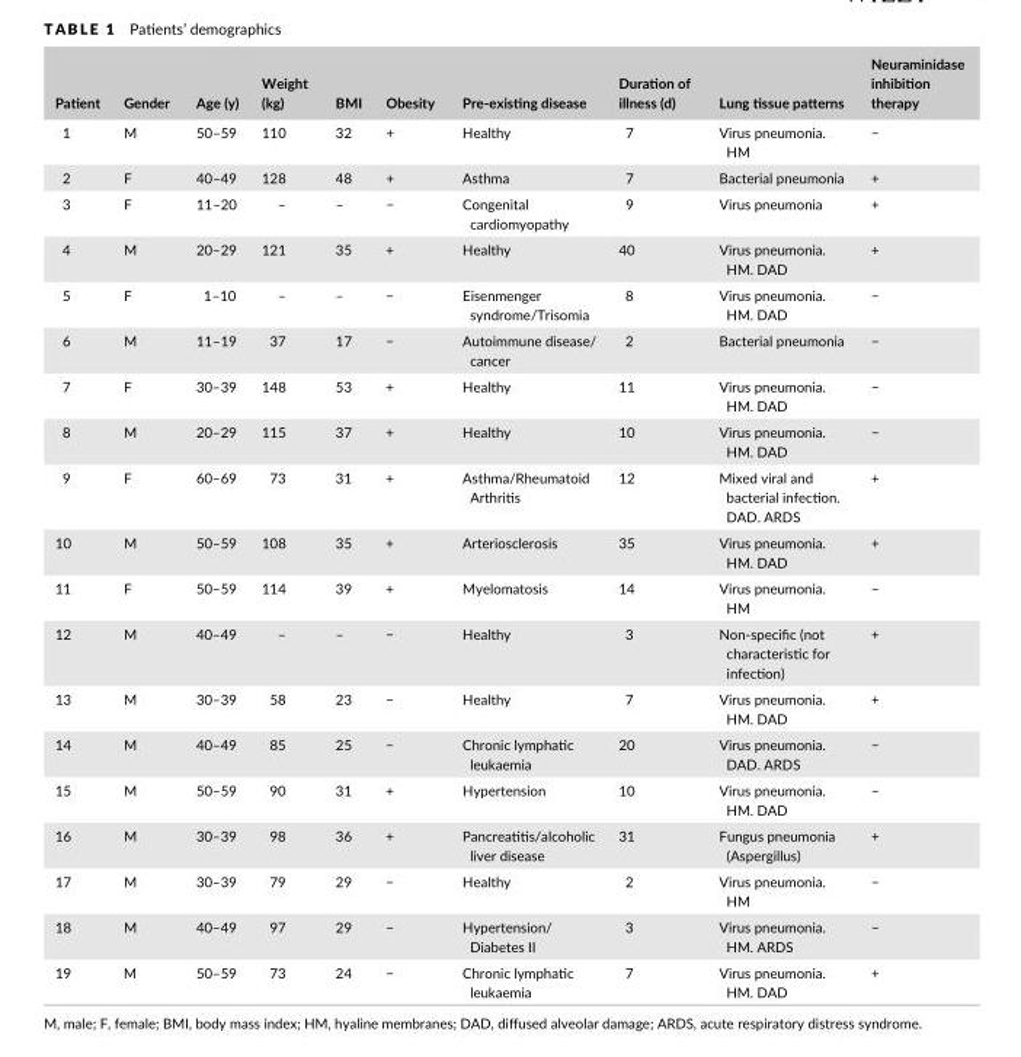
<table><thead><tr><td>Patient</td><td>Gender</td><td>Age (y)</td><td>Weight (kg)</td><td>BMI</td><td>Obesity</td><td>Pre- existing disease</td><td>Duration of illness (d)</td><td>Lung tissue patterns</td><td>Neuraminidase inhibition therapy</td></tr></thead><tbody><tr><td>1</td><td>M</td><td>50–59</td><td>110</td><td>32</td><td>+</td><td>Healthy</td><td>7</td><td>Virus pneumonia. HM</td><td>−</td></tr><tr><td>2</td><td>F</td><td>40–49</td><td>128</td><td>48</td><td>+</td><td>Asthma</td><td>7</td><td>Bacterial pneumonia</td><td>+</td></tr><tr><td>3</td><td>F</td><td>11–20</td><td>–</td><td>–</td><td>−</td><td>Congenital cardiomyopathy</td><td>9</td><td>Virus pneumonia</td><td>+</td></tr><tr><td>4</td><td>M</td><td>20–29</td><td>121</td><td>35</td><td>+</td><td>Healthy</td><td>40</td><td>Virus pneumonia. HM. DAD</td><td>+</td></tr><tr><td>5</td><td>F</td><td>1–10</td><td>–</td><td>–</td><td>−</td><td>Eisenmenger syndrome/Trisomia</td><td>8</td><td>Virus pneumonia. HM. DAD</td><td>−</td></tr><tr><td>6</td><td>M</td><td>11–19</td><td>37</td><td>17</td><td>−</td><td>Autoimmune disease/ cancer</td><td>2</td><td>Bacterial pneumonia</td><td>−</td></tr><tr><td>7</td><td>F</td><td>30–39</td><td>148</td><td>53</td><td>+</td><td>Healthy</td><td>11</td><td>Virus pneumonia. HM. DAD</td><td>−</td></tr><tr><td>8</td><td>M</td><td>20–29</td><td>115</td><td>37</td><td>+</td><td>Healthy</td><td>10</td><td>Virus pneumonia. HM. DAD</td><td>−</td></tr><tr><td>9</td><td>F</td><td>60–69</td><td>73</td><td>31</td><td>+</td><td>Asthma/Rheumatoid Arthritis</td><td>12</td><td>Mixed viral and bacterial infection. DAD. ARDS</td><td>+</td></tr><tr><td>10</td><td>M</td><td>50–59</td><td>108</td><td>35</td><td>+</td><td>Arteriosclerosis</td><td>35</td><td>Virus pneumonia. HM. DAD</td><td>+</td></tr><tr><td>11</td><td>F</td><td>50–59</td><td>114</td><td>39</td><td>+</td><td>Myelomatosis</td><td>14</td><td>Virus pneumonia. HM</td><td>−</td></tr><tr><td>12</td><td>M</td><td>40–49</td><td>–</td><td>–</td><td>−</td><td>Healthy</td><td>3</td><td>Non- specific (not characteristic for infection)</td><td>+</td></tr><tr><td>13</td><td>M</td><td>30–39</td><td>58</td><td>23</td><td>−</td><td>Healthy</td><td>7</td><td>Virus pneumonia. HM. DAD</td><td>+</td></tr><tr><td>14</td><td>M</td><td>40–49</td><td>85</td><td>25</td><td>−</td><td>Chronic lymphatic leukaemia</td><td>20</td><td>Virus pneumonia. DAD. ARDS</td><td>−</td></tr><tr><td>15</td><td>M</td><td>50–59</td><td>90</td><td>31</td><td>+</td><td>Hypertension</td><td>10</td><td>Virus pneumonia. HM. DAD</td><td>−</td></tr><tr><td>16</td><td>M</td><td>30–39</td><td>98</td><td>36</td><td>+</td><td>Pancreatitis/alcoholic liver disease</td><td>31</td><td>Fungus pneumonia (Aspergillus)</td><td>+</td></tr><tr><td>17</td><td>M</td><td>30–39</td><td>79</td><td>29</td><td>−</td><td>Healthy</td><td>2</td><td>Virus pneumonia. HM</td><td>−</td></tr><tr><td>18</td><td>M</td><td>40–49</td><td>97</td><td>29</td><td>−</td><td>Hypertension/ Diabetes II</td><td>3</td><td>Virus pneumonia. HM. ARDS</td><td>−</td></tr><tr><td>19</td><td>M</td><td>50–59</td><td>73</td><td>24</td><td>−</td><td>Chronic lymphatic leukaemia</td><td>7</td><td>Virus pneumonia. HM. DAD</td><td>+</td></tr></tbody></table>